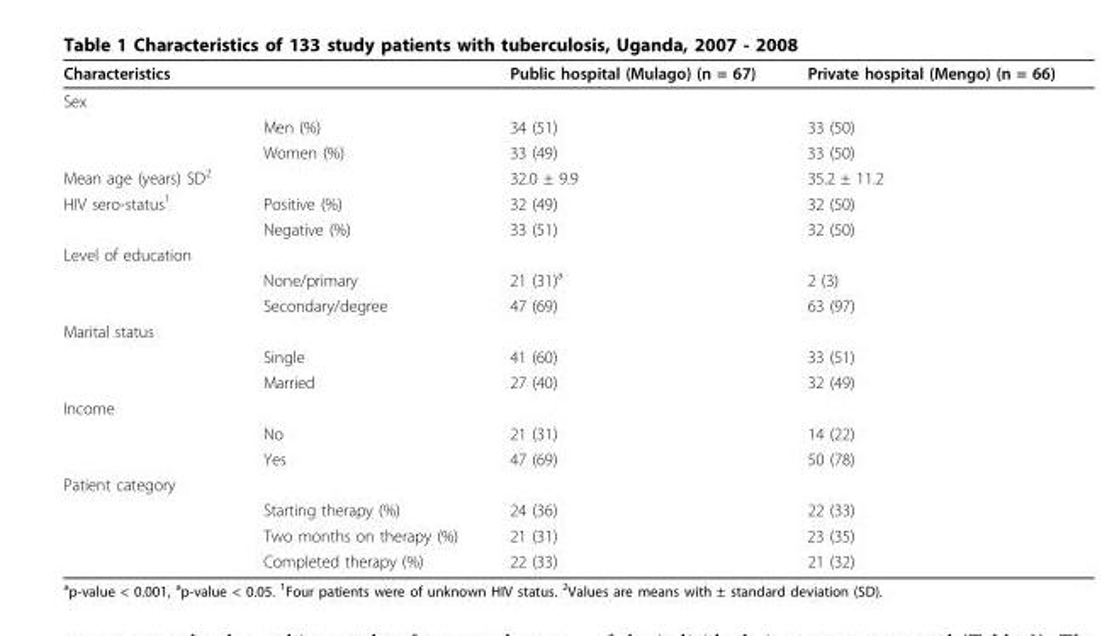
<table><thead><tr><td>Characteristics</td><td></td><td>Public hospital (Mulago) (n = 67)</td><td>Private hospital (Mengo) (n = 66)</td></tr></thead><tbody><tr><td colspan="4">Sex</td></tr><tr><td></td><td>Men (%)</td><td>34 (51)</td><td>33 (50)</td></tr><tr><td></td><td>Women (%)</td><td>33 (49)</td><td>33 (50)</td></tr><tr><td>Mean age (years) SD<sup>2</sup></td><td></td><td>32.0 ± 9.9</td><td>35.2 ± 11.2</td></tr><tr><td rowspan="2">HIV sero-status<sup>1</sup></td><td>Positive (%)</td><td>32 (49)</td><td>32 (50)</td></tr><tr><td>Negative (%)</td><td>33 (51)</td><td>32 (50)</td></tr><tr><td colspan="4">Level of education</td></tr><tr><td></td><td>None/primary</td><td>21 (31)<sup>a</sup></td><td>2 (3)</td></tr><tr><td></td><td>Secondary/degree</td><td>47 (69)</td><td>63 (97)</td></tr><tr><td colspan="4">Marital status</td></tr><tr><td></td><td>Single</td><td>41 (60)</td><td>33 (51)</td></tr><tr><td></td><td>Married</td><td>27 (40)</td><td>32 (49)</td></tr><tr><td colspan="4">Income</td></tr><tr><td></td><td>No</td><td>21 (31)</td><td>14 (22)</td></tr><tr><td></td><td>Yes</td><td>47 (69)</td><td>50 (78)</td></tr><tr><td colspan="4">Patient category</td></tr><tr><td></td><td>Starting therapy (%)</td><td>24 (36)</td><td>22 (33)</td></tr><tr><td></td><td>Two months on therapy (%)</td><td>21 (31)</td><td>23 (35)</td></tr><tr><td></td><td>Completed therapy (%)</td><td>22 (33)</td><td>21 (32)</td></tr></tbody></table>